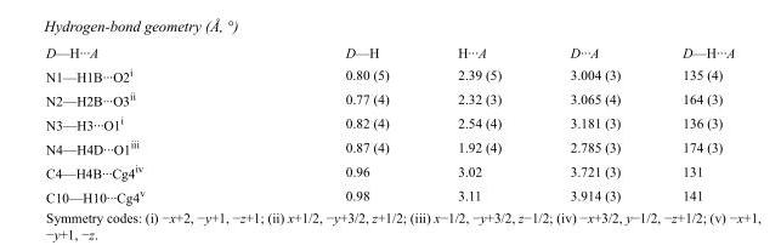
<table><tbody><tr><td>D—H···A</td><td>D—H</td><td>H···A</td><td>D···A</td><td>D—H···A</td></tr><tr><td>N1—H1B···O2<sup>i</sup></td><td>0.80 (5)</td><td>2.39 (5)</td><td>3.004 (3)</td><td>135 (4)</td></tr><tr><td>N2—H2B···O3<sup>ii</sup></td><td>0.77 (4)</td><td>2.32 (3)</td><td>3.065 (4)</td><td>164 (3)</td></tr><tr><td>N3—H3···O1<sup>i</sup></td><td>0.82 (4)</td><td>2.54 (4)</td><td>3.181 (3)</td><td>136 (3)</td></tr><tr><td>N4—H4D···O1<sup>iii</sup></td><td>0.87 (4)</td><td>1.92 (4)</td><td>2.785 (3)</td><td>174 (3)</td></tr><tr><td>C4—H4B···Cg4<sup>iv</sup></td><td>0.96</td><td>3.02</td><td>3.721 (3)</td><td>131</td></tr><tr><td>C10—H10···Cg4<sup>v</sup></td><td>0.98</td><td>3.11</td><td>3.914 (3)</td><td>141</td></tr></tbody></table>